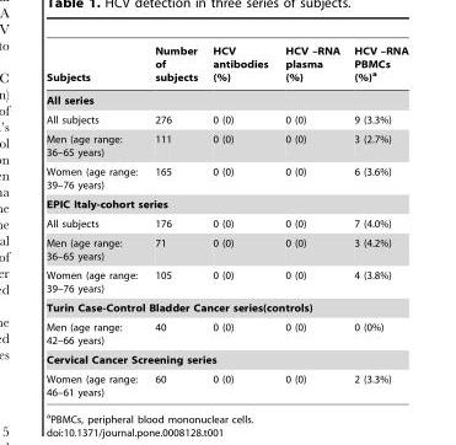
<table><thead><tr><td>Subjects</td><td>Number of subjects</td><td>HCV antibodies (%)</td><td>HCV –RNA plasma (%)</td><td>HCV –RNA PBMCs (%)<sup>a</sup></td></tr></thead><tbody><tr><td colspan="5">All series</td></tr><tr><td>All subjects</td><td>276</td><td>0 (0)</td><td>0 (0)</td><td>9 (3.3%)</td></tr><tr><td>Men (age range: 36–65 years)</td><td>111</td><td>0 (0)</td><td>0 (0)</td><td>3 (2.7%)</td></tr><tr><td>Women (age range: 39–76 years)</td><td>165</td><td>0 (0)</td><td>0 (0)</td><td>6 (3.6%)</td></tr><tr><td colspan="5">EPIC Italy-cohort series</td></tr><tr><td>All subjects</td><td>176</td><td>0 (0)</td><td>0 (0)</td><td>7 (4.0%)</td></tr><tr><td>Men (age range: 36–65 years)</td><td>71</td><td>0 (0)</td><td>0 (0)</td><td>3 (4.2%)</td></tr><tr><td>Women (age range: 39–76 years)</td><td>105</td><td>0 (0)</td><td>0 (0)</td><td>4 (3.8%)</td></tr><tr><td colspan="5">Turin Case-Control Bladder Cancer series(controls)</td></tr><tr><td>Men (age range: 42–66 years)</td><td>40</td><td>0 (0)</td><td>0 (0)</td><td>0 (0%)</td></tr><tr><td colspan="5">Cervical Cancer Screening series</td></tr><tr><td>Women (age range: 46–61 years)</td><td>60</td><td>0 (0)</td><td>0 (0)</td><td>2 (3.3%)</td></tr></tbody></table>